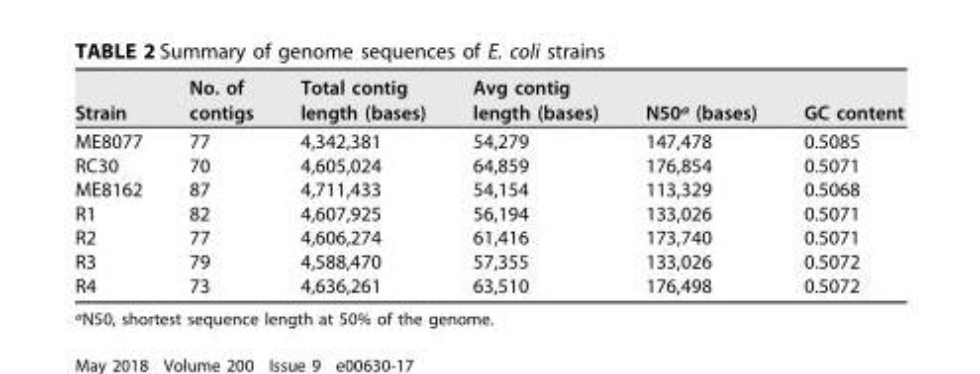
<table><thead><tr><td>Strain</td><td>No. of contigs</td><td>Total contig length (bases)</td><td>Avg contig length (bases)</td><td>N50<sup>a</sup> (bases)</td><td>GC content</td></tr></thead><tbody><tr><td>ME8077</td><td>77</td><td>4,342,381</td><td>54,279</td><td>147,478</td><td>0.5085</td></tr><tr><td>RC30</td><td>70</td><td>4,605,024</td><td>64,859</td><td>176,854</td><td>0.5071</td></tr><tr><td>ME8162</td><td>87</td><td>4,711,433</td><td>54,154</td><td>113,329</td><td>0.5068</td></tr><tr><td>R1</td><td>82</td><td>4,607,925</td><td>56,194</td><td>133,026</td><td>0.5071</td></tr><tr><td>R2</td><td>77</td><td>4,606,274</td><td>61,416</td><td>173,740</td><td>0.5071</td></tr><tr><td>R3</td><td>79</td><td>4,588,470</td><td>57,355</td><td>133,026</td><td>0.5072</td></tr><tr><td>R4</td><td>73</td><td>4,636,261</td><td>63,510</td><td>176,498</td><td>0.5072</td></tr></tbody></table>